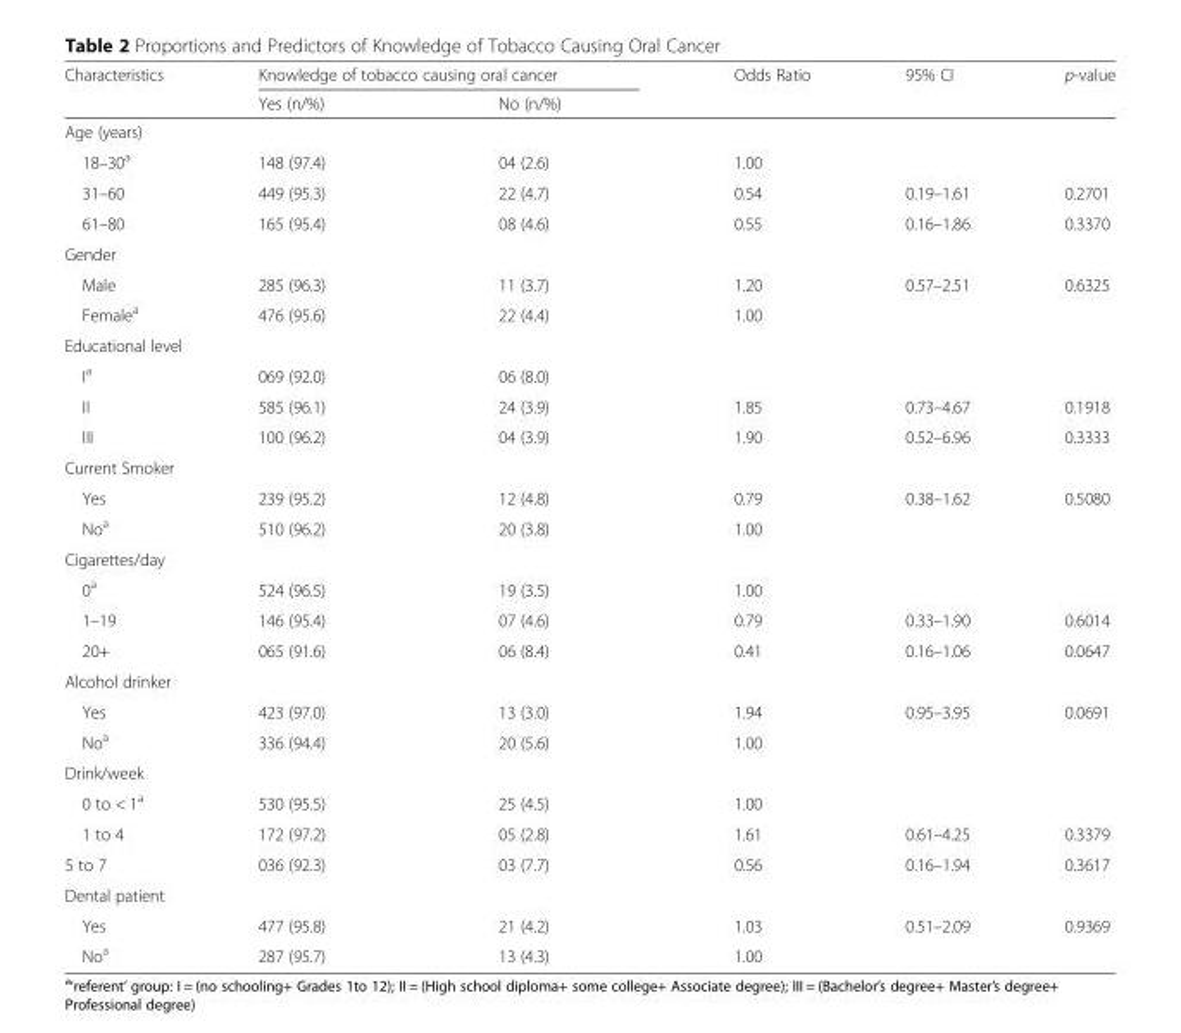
<table><thead><tr><td rowspan="2">Characteristics</td><td colspan="2">Knowledge of tobacco causing oral cancer</td><td rowspan="2">Odds Ratio</td><td rowspan="2">95% CI</td><td rowspan="2">p-value</td></tr><tr><td>Yes (n/%)</td><td>No (n/%)</td></tr></thead><tbody><tr><td colspan="6">Age (years)</td></tr><tr><td>18–30<sup>a</sup></td><td>148 (97.4)</td><td>04 (2.6)</td><td>1.00</td><td></td><td></td></tr><tr><td>31–60</td><td>449 (95.3)</td><td>22 (4.7)</td><td>0.54</td><td>0.19–1.61</td><td>0.2701</td></tr><tr><td>61–80</td><td>165 (95.4)</td><td>08 (4.6)</td><td>0.55</td><td>0.16–1.86</td><td>0.3370</td></tr><tr><td colspan="6">Gender</td></tr><tr><td>Male</td><td>285 (96.3)</td><td>11 (3.7)</td><td>1.20</td><td>0.57–2.51</td><td>0.6325</td></tr><tr><td>Female<sup>a</sup></td><td>476 (95.6)</td><td>22 (4.4)</td><td>1.00</td><td></td><td></td></tr><tr><td colspan="6">Educational level</td></tr><tr><td>I<sup>a</sup></td><td>069 (92.0)</td><td>06 (8.0)</td><td></td><td></td><td></td></tr><tr><td>II</td><td>585 (96.1)</td><td>24 (3.9)</td><td>1.85</td><td>0.73–4.67</td><td>0.1918</td></tr><tr><td>III</td><td>100 (96.2)</td><td>04 (3.9)</td><td>1.90</td><td>0.52–6.96</td><td>0.3333</td></tr><tr><td colspan="6">Current Smoker</td></tr><tr><td>Yes</td><td>239 (95.2)</td><td>12 (4.8)</td><td>0.79</td><td>0.38–1.62</td><td>0.5080</td></tr><tr><td>No<sup>a</sup></td><td>510 (96.2)</td><td>20 (3.8)</td><td>1.00</td><td></td><td></td></tr><tr><td colspan="6">Cigarettes/day</td></tr><tr><td>0<sup>a</sup></td><td>524 (96.5)</td><td>19 (3.5)</td><td>1.00</td><td></td><td></td></tr><tr><td>1–19</td><td>146 (95.4)</td><td>07 (4.6)</td><td>0.79</td><td>0.33–1.90</td><td>0.6014</td></tr><tr><td>20+</td><td>065 (91.6)</td><td>06 (8.4)</td><td>0.41</td><td>0.16–1.06</td><td>0.0647</td></tr><tr><td colspan="6">Alcohol drinker</td></tr><tr><td>Yes</td><td>423 (97.0)</td><td>13 (3.0)</td><td>1.94</td><td>0.95–3.95</td><td>0.0691</td></tr><tr><td>No<sup>a</sup></td><td>336 (94.4)</td><td>20 (5.6)</td><td>1.00</td><td></td><td></td></tr><tr><td colspan="6">Drink/week</td></tr><tr><td>0 to &lt; 1<sup>a</sup></td><td>530 (95.5)</td><td>25 (4.5)</td><td>1.00</td><td></td><td></td></tr><tr><td>1 to 4</td><td>172 (97.2)</td><td>05 (2.8)</td><td>1.61</td><td>0.61–4.25</td><td>0.3379</td></tr><tr><td>5 to 7</td><td>036 (92.3)</td><td>03 (7.7)</td><td>0.56</td><td>0.16–1.94</td><td>0.3617</td></tr><tr><td colspan="6">Dental patient</td></tr><tr><td>Yes</td><td>477 (95.8)</td><td>21 (4.2)</td><td>1.03</td><td>0.51–2.09</td><td>0.9369</td></tr><tr><td>No<sup>a</sup></td><td>287 (95.7)</td><td>13 (4.3)</td><td>1.00</td><td></td><td></td></tr></tbody></table>